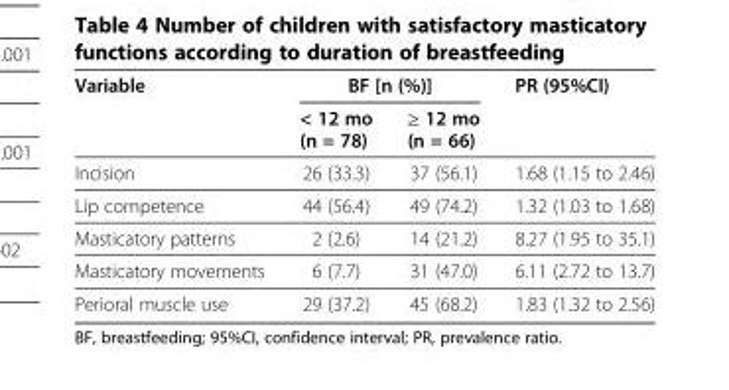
<table><thead><tr><td rowspan="2">Variable</td><td colspan="2">BF [n (%)]</td><td rowspan="2">PR (95%CI)</td></tr><tr><td>&lt; 12 mo (n = 78)</td><td>≥ 12 mo (n = 66)</td></tr></thead><tbody><tr><td>Incision</td><td>26 (33.3)</td><td>37 (56.1)</td><td>1.68 (1.15 to 2.46)</td></tr><tr><td>Lip competence</td><td>44 (56.4)</td><td>49 (74.2)</td><td>1.32 (1.03 to 1.68)</td></tr><tr><td>Masticatory patterns</td><td>2 (2.6)</td><td>14 (21.2)</td><td>8.27 (1.95 to 35.1)</td></tr><tr><td>Masticatory movements</td><td>6 (7.7)</td><td>31 (47.0)</td><td>6.11 (2.72 to 13.7)</td></tr><tr><td>Perioral muscle use</td><td>29 (37.2)</td><td>45 (68.2)</td><td>1.83 (1.32 to 2.56)</td></tr></tbody></table>